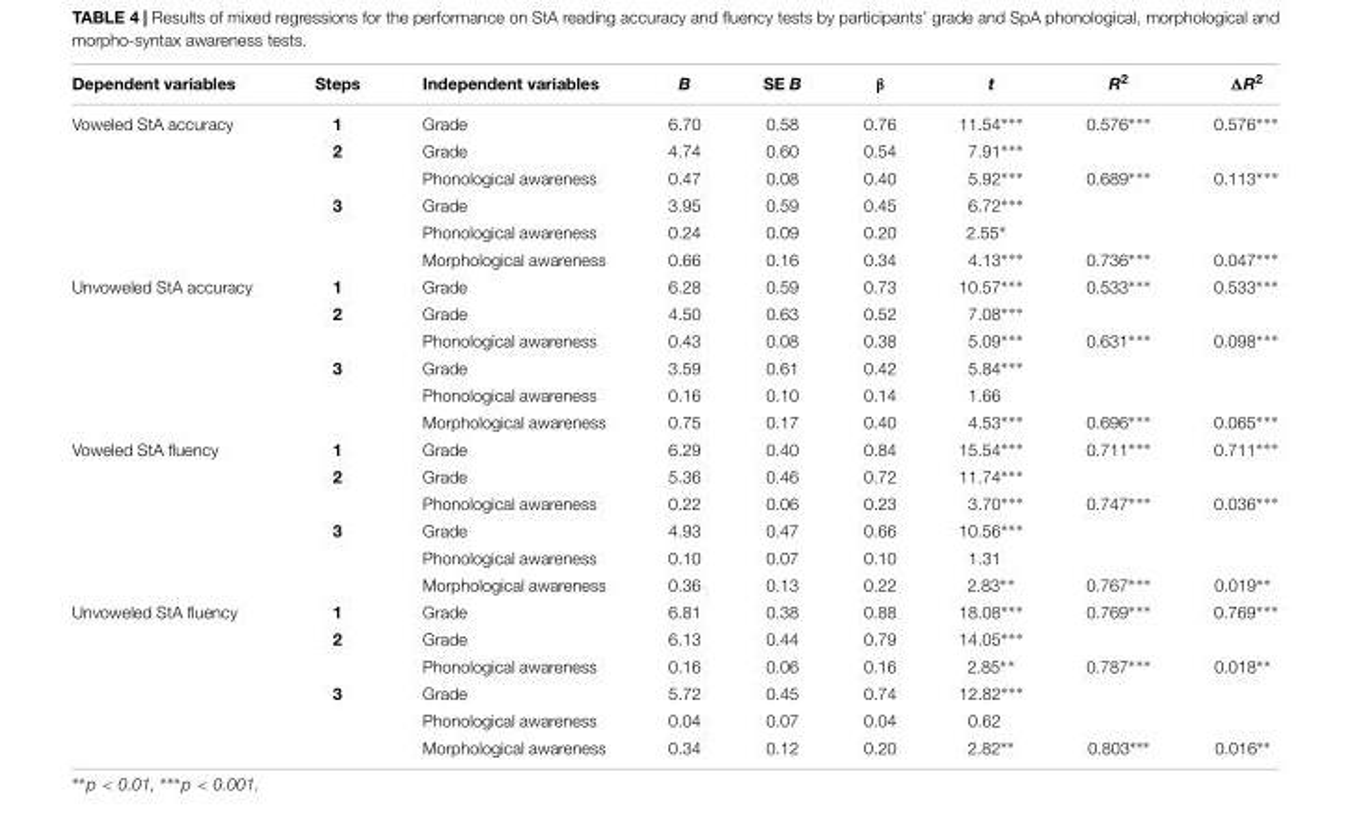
<table><thead><tr><td>Dependent variables</td><td>Steps</td><td>Independent variables</td><td>B</td><td>SE B</td><td>β</td><td>t</td><td>R<sup>2</sup></td><td>ΔR<sup>2</sup></td></tr></thead><tbody><tr><td rowspan="6">Voweled StA accuracy</td><td>1</td><td>Grade</td><td>6.70</td><td>0.58</td><td>0.76</td><td>11.54∗∗∗</td><td>0.576∗∗∗</td><td>0.576∗∗∗</td></tr><tr><td>2</td><td>Grade</td><td>4.74</td><td>0.60</td><td>0.54</td><td>7.91∗∗∗</td><td></td><td></td></tr><tr><td></td><td>Phonological awareness</td><td>0.47</td><td>0.08</td><td>0.40</td><td>5.92∗∗∗</td><td>0.689∗∗∗</td><td>0.113∗∗∗</td></tr><tr><td>3</td><td>Grade</td><td>3.95</td><td>0.59</td><td>0.45</td><td>6.72∗∗∗</td><td></td><td></td></tr><tr><td></td><td>Phonological awareness</td><td>0.24</td><td>0.09</td><td>0.20</td><td>2.55∗</td><td></td><td></td></tr><tr><td></td><td>Morphological awareness</td><td>0.66</td><td>0.16</td><td>0.34</td><td>4.13∗∗∗</td><td>0.736∗∗∗</td><td>0.047∗∗∗</td></tr><tr><td rowspan="6">Unvoweled StA accuracy</td><td>1</td><td>Grade</td><td>6.28</td><td>0.59</td><td>0.73</td><td>10.57∗∗∗</td><td>0.533∗∗∗</td><td>0.533∗∗∗</td></tr><tr><td>2</td><td>Grade</td><td>4.50</td><td>0.63</td><td>0.52</td><td>7.08∗∗∗</td><td></td><td></td></tr><tr><td></td><td>Phonological awareness</td><td>0.43</td><td>0.08</td><td>0.38</td><td>5.09∗∗∗</td><td>0.631∗∗∗</td><td>0.098∗∗∗</td></tr><tr><td>3</td><td>Grade</td><td>3.59</td><td>0.61</td><td>0.42</td><td>5.84∗∗∗</td><td></td><td></td></tr><tr><td></td><td>Phonological awareness</td><td>0.16</td><td>0.10</td><td>0.14</td><td>1.66</td><td></td><td></td></tr><tr><td></td><td>Morphological awareness</td><td>0.75</td><td>0.17</td><td>0.40</td><td>4.53∗∗∗</td><td>0.696∗∗∗</td><td>0.065∗∗∗</td></tr><tr><td rowspan="6">Voweled StA fluency</td><td>1</td><td>Grade</td><td>6.29</td><td>0.40</td><td>0.84</td><td>15.54∗∗∗</td><td>0.711∗∗∗</td><td>0.711∗∗∗</td></tr><tr><td>2</td><td>Grade</td><td>5.36</td><td>0.46</td><td>0.72</td><td>11.74∗∗∗</td><td></td><td></td></tr><tr><td></td><td>Phonological awareness</td><td>0.22</td><td>0.06</td><td>0.23</td><td>3.70∗∗∗</td><td>0.747∗∗∗</td><td>0.036∗∗∗</td></tr><tr><td>3</td><td>Grade</td><td>4.93</td><td>0.47</td><td>0.66</td><td>10.56∗∗∗</td><td></td><td></td></tr><tr><td></td><td>Phonological awareness</td><td>0.10</td><td>0.07</td><td>0.10</td><td>1.31</td><td></td><td></td></tr><tr><td></td><td>Morphological awareness</td><td>0.36</td><td>0.13</td><td>0.22</td><td>2.83∗∗</td><td>0.767∗∗∗</td><td>0.019∗∗</td></tr><tr><td rowspan="6">Unvoweled StA fluency</td><td>1</td><td>Grade</td><td>6.81</td><td>0.38</td><td>0.88</td><td>18.08∗∗∗</td><td>0.769∗∗∗</td><td>0.769∗∗∗</td></tr><tr><td>2</td><td>Grade</td><td>6.13</td><td>0.44</td><td>0.79</td><td>14.05∗∗∗</td><td></td><td></td></tr><tr><td></td><td>Phonological awareness</td><td>0.16</td><td>0.06</td><td>0.16</td><td>2.85∗∗</td><td>0.787∗∗∗</td><td>0.018∗∗</td></tr><tr><td>3</td><td>Grade</td><td>5.72</td><td>0.45</td><td>0.74</td><td>12.82∗∗∗</td><td></td><td></td></tr><tr><td></td><td>Phonological awareness</td><td>0.04</td><td>0.07</td><td>0.04</td><td>0.62</td><td></td><td></td></tr><tr><td></td><td>Morphological awareness</td><td>0.34</td><td>0.12</td><td>0.20</td><td>2.82∗∗</td><td>0.803∗∗∗</td><td>0.016∗∗</td></tr></tbody></table>